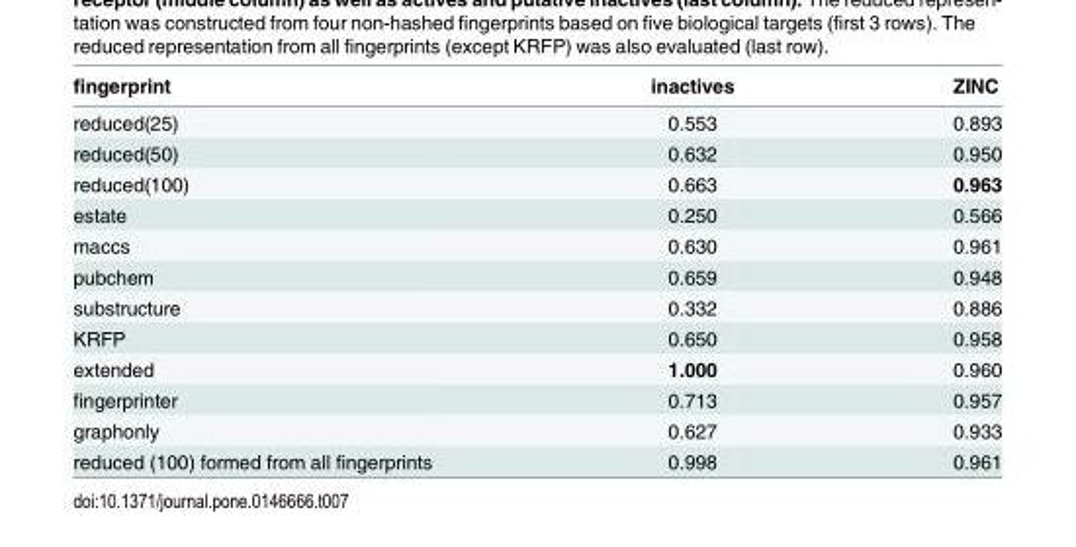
<table><thead><tr><td>fingerprint</td><td>inactives</td><td>ZINC</td></tr></thead><tbody><tr><td>reduced(25)</td><td>0.553</td><td>0.893</td></tr><tr><td>reduced(50)</td><td>0.632</td><td>0.950</td></tr><tr><td>reduced(100)</td><td>0.663</td><td>0.963</td></tr><tr><td>estate</td><td>0.250</td><td>0.566</td></tr><tr><td>maccs</td><td>0.630</td><td>0.961</td></tr><tr><td>pubchem</td><td>0.659</td><td>0.948</td></tr><tr><td>substructure</td><td>0.332</td><td>0.886</td></tr><tr><td>KRFP</td><td>0.650</td><td>0.958</td></tr><tr><td>extended</td><td>1.000</td><td>0.960</td></tr><tr><td>fingerprinter</td><td>0.713</td><td>0.957</td></tr><tr><td>graphonly</td><td>0.627</td><td>0.933</td></tr><tr><td>reduced (100) formed from all fingerprints</td><td>0.998</td><td>0.961</td></tr></tbody></table>